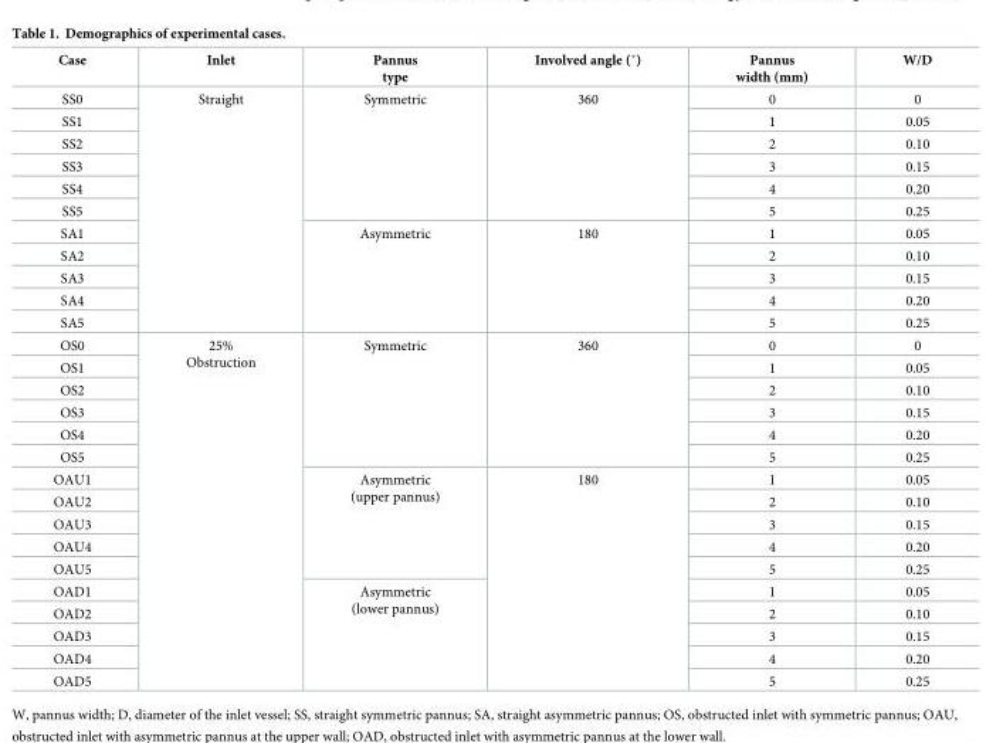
<table><thead><tr><td>Case</td><td>Inlet</td><td>Pannus type</td><td>Involved angle (˚)</td><td>Pannus width (mm)</td><td>W/D</td></tr></thead><tbody><tr><td>SS0</td><td rowspan="11">Straight</td><td rowspan="6">Symmetric</td><td rowspan="6">360</td><td>0</td><td>0</td></tr><tr><td>SS1</td><td>1</td><td>0.05</td></tr><tr><td>SS2</td><td>2</td><td>0.10</td></tr><tr><td>SS3</td><td>3</td><td>0.15</td></tr><tr><td>SS4</td><td>4</td><td>0.20</td></tr><tr><td>SS5</td><td>5</td><td>0.25</td></tr><tr><td>SA1</td><td rowspan="5">Asymmetric</td><td rowspan="5">180</td><td>1</td><td>0.05</td></tr><tr><td>SA2</td><td>2</td><td>0.10</td></tr><tr><td>SA3</td><td>3</td><td>0.15</td></tr><tr><td>SA4</td><td>4</td><td>0.20</td></tr><tr><td>SA5</td><td>5</td><td>0.25</td></tr><tr><td>OS0</td><td rowspan="16">25% Obstruction</td><td rowspan="6">Symmetric</td><td rowspan="6">360</td><td>0</td><td>0</td></tr><tr><td>OS1</td><td>1</td><td>0.05</td></tr><tr><td>OS2</td><td>2</td><td>0.10</td></tr><tr><td>OS3</td><td>3</td><td>0.15</td></tr><tr><td>OS4</td><td>4</td><td>0.20</td></tr><tr><td>OS5</td><td>5</td><td>0.25</td></tr><tr><td>OAU1</td><td rowspan="5">Asymmetric (upper pannus)</td><td rowspan="10">180</td><td>1</td><td>0.05</td></tr><tr><td>OAU2</td><td>2</td><td>0.10</td></tr><tr><td>OAU3</td><td>3</td><td>0.15</td></tr><tr><td>OAU4</td><td>4</td><td>0.20</td></tr><tr><td>OAU5</td><td>5</td><td>0.25</td></tr><tr><td>OAD1</td><td rowspan="5">Asymmetric (lower pannus)</td><td>1</td><td>0.05</td></tr><tr><td>OAD2</td><td>2</td><td>0.10</td></tr><tr><td>OAD3</td><td>3</td><td>0.15</td></tr><tr><td>OAD4</td><td>4</td><td>0.20</td></tr><tr><td>OAD5</td><td>5</td><td>0.25</td></tr></tbody></table>